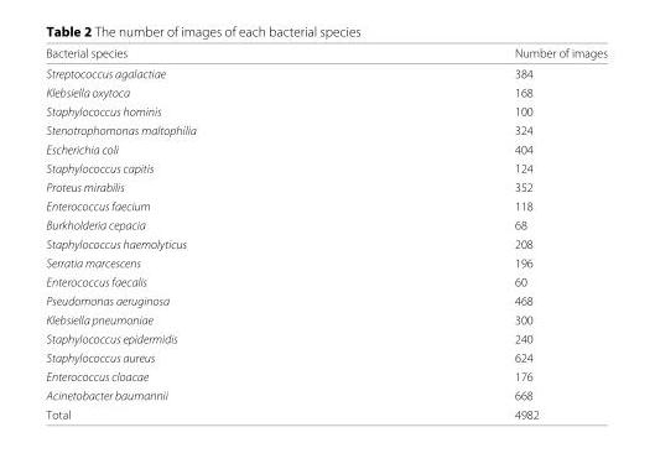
<table><thead><tr><td>Bacterial species</td><td>Number of images</td></tr></thead><tbody><tr><td>Streptococcus agalactiae</td><td>384</td></tr><tr><td>Klebsiella oxytoca</td><td>168</td></tr><tr><td>Staphylococcus hominis</td><td>100</td></tr><tr><td>Stenotrophomonas maltophilia</td><td>324</td></tr><tr><td>Escherichia coli</td><td>404</td></tr><tr><td>Staphylococcus capitis</td><td>124</td></tr><tr><td>Proteus mirabilis</td><td>352</td></tr><tr><td>Enterococcus faecium</td><td>118</td></tr><tr><td>Burkholderia cepacia</td><td>68</td></tr><tr><td>Staphylococcus haemolyticus</td><td>208</td></tr><tr><td>Serratia marcescens</td><td>196</td></tr><tr><td>Enterococcus faecalis</td><td>60</td></tr><tr><td>Pseudomonas aeruginosa</td><td>468</td></tr><tr><td>Klebsiella pneumoniae</td><td>300</td></tr><tr><td>Staphylococcus epidermidis</td><td>240</td></tr><tr><td>Staphylococcus aureus</td><td>624</td></tr><tr><td>Enterococcus cloacae</td><td>176</td></tr><tr><td>Acinetobacter baumannii</td><td>668</td></tr><tr><td>Total</td><td>4982</td></tr></tbody></table>